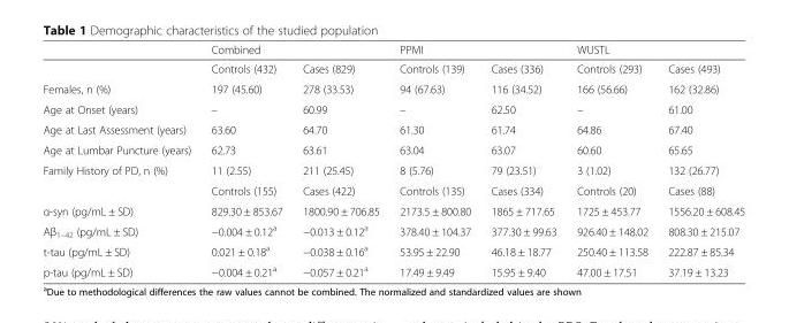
<table><thead><tr><td rowspan="2"></td><td colspan="2">Combined</td><td colspan="2">PPMI</td><td colspan="2">WUSTL</td></tr><tr><td>Controls (432)</td><td>Cases (829)</td><td>Controls (139)</td><td>Cases (336)</td><td>Controls (293)</td><td>Cases (493)</td></tr></thead><tbody><tr><td>Females, n (%)</td><td>197 (45.60)</td><td>278 (33.53)</td><td>94 (67.63)</td><td>116 (34.52)</td><td>166 (56.66)</td><td>162 (32.86)</td></tr><tr><td>Age at Onset (years)</td><td>–</td><td>60.99</td><td>–</td><td>62.50</td><td>–</td><td>61.00</td></tr><tr><td>Age at Last Assessment (years)</td><td>63.60</td><td>64.70</td><td>61.30</td><td>61.74</td><td>64.86</td><td>67.40</td></tr><tr><td>Age at Lumbar Puncture (years)</td><td>62.73</td><td>63.61</td><td>63.04</td><td>63.07</td><td>60.60</td><td>65.65</td></tr><tr><td rowspan="2">Family History of PD, n (%)</td><td>11 (2.55)</td><td>211 (25.45)</td><td>8 (5.76)</td><td>79 (23.51)</td><td>3 (1.02)</td><td>132 (26.77)</td></tr><tr><td>Controls (155)</td><td>Cases (422)</td><td>Controls (135)</td><td>Cases (334)</td><td>Controls (20)</td><td>Cases (88)</td></tr><tr><td>α-syn (pg/mL ± SD)</td><td>829.30 ± 853.67</td><td>1800.90 ± 706.85</td><td>2173.5 ± 800.80</td><td>1865 ± 717.65</td><td>1725 ± 453.77</td><td>1556.20 ± 608.45</td></tr><tr><td>Aβ<sub>1–42</sub> (pg/mL ± SD)</td><td>−0.004 ± 0.12<sup>a</sup></td><td>−0.013 ± 0.12<sup>a</sup></td><td>378.40 ± 104.37</td><td>377.30 ± 99.63</td><td>926.40 ± 148.02</td><td>808.30 ± 215.07</td></tr><tr><td>t-tau (pg/mL ± SD)</td><td>0.021 ± 0.18<sup>a</sup></td><td>−0.038 ± 0.16<sup>a</sup></td><td>53.95 ± 22.90</td><td>46.18 ± 18.77</td><td>250.40 ± 113.58</td><td>222.87 ± 85.34</td></tr><tr><td>p-tau (pg/mL ± SD)</td><td>−0.004 ± 0.21<sup>a</sup></td><td>−0.057 ± 0.21<sup>a</sup></td><td>17.49 ± 9.49</td><td>15.95 ± 9.40</td><td>47.00 ± 17.51</td><td>37.19 ± 13.23</td></tr></tbody></table>